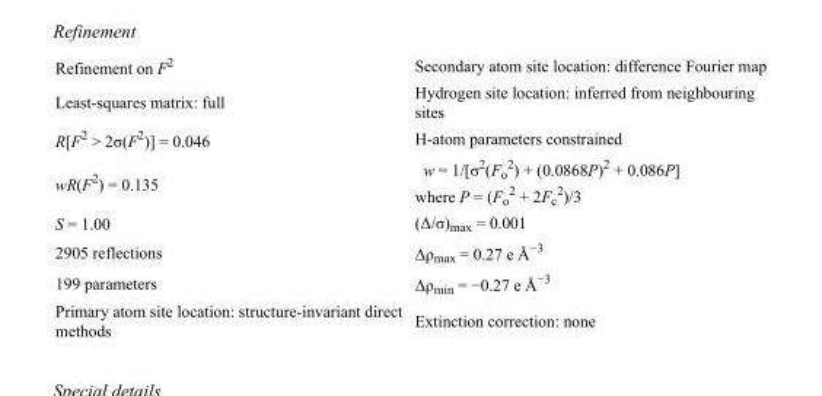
<table><tbody><tr><td>Refinement on F<sup>2</sup></td><td>Secondary atom site location: difference Fourier map</td></tr><tr><td>Least-squares matrix: full</td><td>Hydrogen site location: inferred from neighbouring sites</td></tr><tr><td>R[F<sup>2</sup> &gt; 2σ(F<sup>2</sup>)] = 0.046</td><td>H-atom parameters constrained</td></tr><tr><td>wR(F<sup>2</sup>) = 0.135</td><td>w = 1/[σ<sup>2</sup>(F<sub>o</sub> <sup>2</sup>) + (0.0868P)<sup>2</sup> + 0.086P] where P = (F<sub>o</sub> <sup>2</sup> + 2F<sub>c</sub> <sup>2</sup>)/3</td></tr><tr><td>S = 1.00</td><td>(Δ/σ)<sub>max</sub> = 0.001</td></tr><tr><td>2905 reflections</td><td>Δρ<sub>max</sub> = 0.27 e Å<sup>−3</sup></td></tr><tr><td>199 parameters</td><td>Δρ<sub>min</sub> = −0.27 e Å<sup>−3</sup></td></tr><tr><td>Primary atom site location: structure-invariant direct methods</td><td>Extinction correction: none</td></tr></tbody></table>